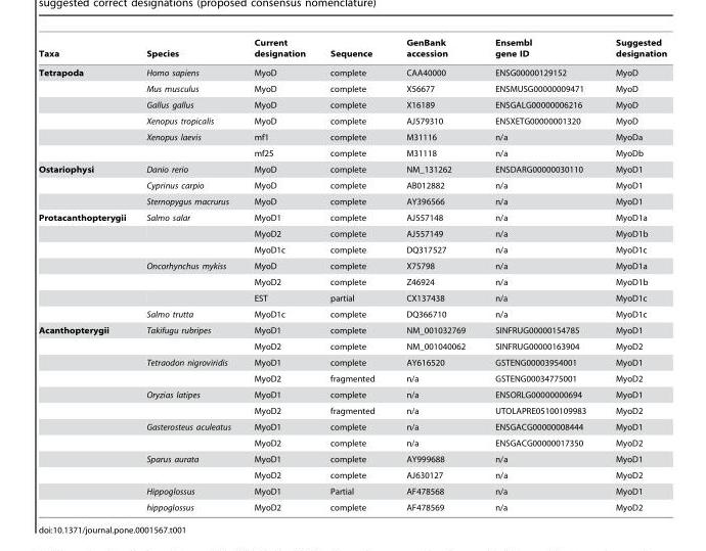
<table><thead><tr><td>Taxa</td><td>Species</td><td>Current designation</td><td>Sequence</td><td>GenBank accession</td><td>Ensembl gene ID</td><td>Suggested designation</td></tr></thead><tbody><tr><td rowspan="6">Tetrapoda</td><td>Homo sapiens</td><td>MyoD</td><td>complete</td><td>CAA40000</td><td>ENSG00000129152</td><td>MyoD</td></tr><tr><td>Mus musculus</td><td>MyoD</td><td>complete</td><td>X56677</td><td>ENSMUSG00000009471</td><td>MyoD</td></tr><tr><td>Gallus gallus</td><td>MyoD</td><td>complete</td><td>X16189</td><td>ENSGALG00000006216</td><td>MyoD</td></tr><tr><td>Xenopus tropicalis</td><td>MyoD</td><td>complete</td><td>AJ579310</td><td>ENSXETG00000001320</td><td>MyoD</td></tr><tr><td>Xenopus laevis</td><td>mf1</td><td>complete</td><td>M31116</td><td>n/a</td><td>MyoDa</td></tr><tr><td></td><td>mf25</td><td>complete</td><td>M31118</td><td>n/a</td><td>MyoDb</td></tr><tr><td rowspan="3">Ostariophysi</td><td>Danio rerio</td><td>MyoD</td><td>complete</td><td>NM_131262</td><td>ENSDARG00000030110</td><td>MyoD1</td></tr><tr><td>Cyprinus carpio</td><td>MyoD</td><td>complete</td><td>AB012882</td><td>n/a</td><td>MyoD1</td></tr><tr><td>Sternopygus macrurus</td><td>MyoD</td><td>complete</td><td>AY396566</td><td>n/a</td><td>MyoD1</td></tr><tr><td rowspan="7">Protacanthopterygii</td><td>Salmo salar</td><td>MyoD1</td><td>complete</td><td>AJ557148</td><td>n/a</td><td>MyoD1a</td></tr><tr><td></td><td>MyoD2</td><td>complete</td><td>AJ557149</td><td>n/a</td><td>MyoD1b</td></tr><tr><td></td><td>MyoD1c</td><td>complete</td><td>DQ317527</td><td>n/a</td><td>MyoD1c</td></tr><tr><td>Oncorhynchus mykiss</td><td>MyoD</td><td>complete</td><td>X75798</td><td>n/a</td><td>MyoD1a</td></tr><tr><td></td><td>MyoD2</td><td>complete</td><td>Z46924</td><td>n/a</td><td>MyoD1b</td></tr><tr><td></td><td>EST</td><td>partial</td><td>CX137438</td><td>n/a</td><td>MyoD1c</td></tr><tr><td>Salmo trutta</td><td>MyoD1c</td><td>complete</td><td>DQ366710</td><td>n/a</td><td>MyoD1c</td></tr><tr><td rowspan="12">Acanthopterygii</td><td>Takifugu rubripes</td><td>MyoD1</td><td>complete</td><td>NM_001032769</td><td>SINFRUG00000154785</td><td>MyoD1</td></tr><tr><td></td><td>MyoD2</td><td>complete</td><td>NM_001040062</td><td>SINFRUG00000163904</td><td>MyoD2</td></tr><tr><td>Tetraodon nigroviridis</td><td>MyoD1</td><td>complete</td><td>AY616520</td><td>GSTENG00003954001</td><td>MyoD1</td></tr><tr><td></td><td>MyoD2</td><td>fragmented</td><td>n/a</td><td>GSTENG00034775001</td><td>MyoD2</td></tr><tr><td>Oryzias latipes</td><td>MyoD1</td><td>complete</td><td>n/a</td><td>ENSORLG00000000694</td><td>MyoD1</td></tr><tr><td></td><td>MyoD2</td><td>fragmented</td><td>n/a</td><td>UTOLAPRE05100109983</td><td>MyoD2</td></tr><tr><td>Gasterosteus aculeatus</td><td>MyoD1</td><td>complete</td><td>n/a</td><td>ENSGACG00000008444</td><td>MyoD1</td></tr><tr><td></td><td>MyoD2</td><td>complete</td><td>n/a</td><td>ENSGACG00000017350</td><td>MyoD2</td></tr><tr><td>Sparus aurata</td><td>MyoD1</td><td>complete</td><td>AY999688</td><td>n/a</td><td>MyoD1</td></tr><tr><td></td><td>MyoD2</td><td>complete</td><td>AJ630127</td><td>n/a</td><td>MyoD2</td></tr><tr><td>Hippoglossus</td><td>MyoD1</td><td>Partial</td><td>AF478568</td><td>n/a</td><td>MyoD1</td></tr><tr><td>hippoglossus</td><td>MyoD2</td><td>complete</td><td>AF478569</td><td>n/a</td><td>MyoD2</td></tr></tbody></table>